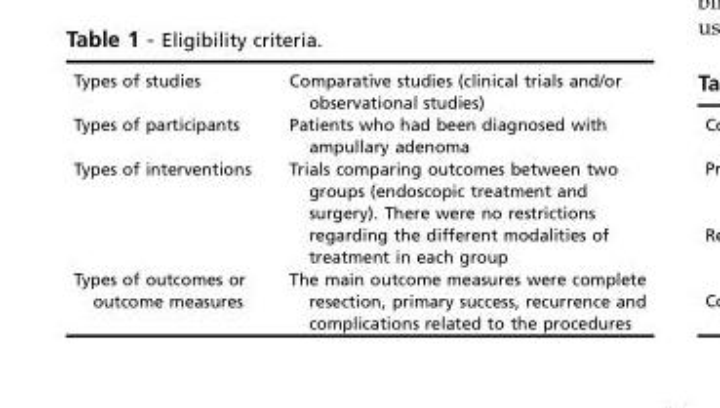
<table><thead><tr><td rowspan="4">Types of studies Types of participants Types of interventions Types of outcomes or outcome measures</td><td rowspan="4">Comparative studies (clinical trials and/or observational studies) Patients who had been diagnosed with ampullary adenoma Trials comparing outcomes between two groups (endoscopic treatment and surgery). There were no restrictions regarding the different modalities of treatment in each group The main outcome measures were complete resection, primary success, recurrence and complications related to the procedures</td></tr><tr></tr><tr></tr><tr></tr></thead><tbody></tbody></table>